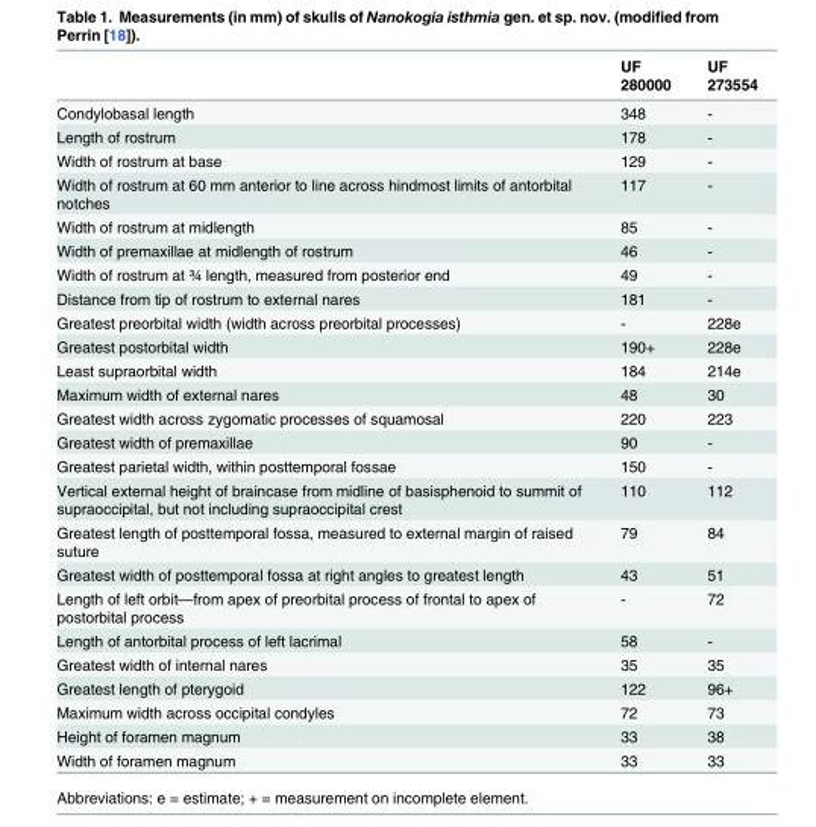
<table><thead><tr><td></td><td>UF 280000</td><td>UF 273554</td></tr></thead><tbody><tr><td>Condylobasal length</td><td>348</td><td>-</td></tr><tr><td>Length of rostrum</td><td>178</td><td>-</td></tr><tr><td>Width of rostrum at base</td><td>129</td><td>-</td></tr><tr><td>Width of rostrum at 60 mm anterior to line across hindmost limits of antorbital notches</td><td>117</td><td>-</td></tr><tr><td>Width of rostrum at midlength</td><td>85</td><td>-</td></tr><tr><td>Width of premaxillae at midlength of rostrum</td><td>46</td><td>-</td></tr><tr><td>Width of rostrum at ¾ length, measured from posterior end</td><td>49</td><td>-</td></tr><tr><td>Distance from tip of rostrum to external nares</td><td>181</td><td>-</td></tr><tr><td>Greatest preorbital width (width across preorbital processes)</td><td>-</td><td>228e</td></tr><tr><td>Greatest postorbital width</td><td>190+</td><td>228e</td></tr><tr><td>Least supraorbital width</td><td>184</td><td>214e</td></tr><tr><td>Maximum width of external nares</td><td>48</td><td>30</td></tr><tr><td>Greatest width across zygomatic processes of squamosal</td><td>220</td><td>223</td></tr><tr><td>Greatest width of premaxillae</td><td>90</td><td>-</td></tr><tr><td>Greatest parietal width, within posttemporal fossae</td><td>150</td><td>-</td></tr><tr><td>Vertical external height of braincase from midline of basisphenoid to summit of supraoccipital, but not including supraoccipital crest</td><td>110</td><td>112</td></tr><tr><td>Greatest length of posttemporal fossa, measured to external margin of raised suture</td><td>79</td><td>84</td></tr><tr><td>Greatest width of posttemporal fossa at right angles to greatest length</td><td>43</td><td>51</td></tr><tr><td>Length of left orbit—from apex of preorbital process of frontal to apex of postorbital process</td><td>-</td><td>72</td></tr><tr><td>Length of antorbital process of left lacrimal</td><td>58</td><td>-</td></tr><tr><td>Greatest width of internal nares</td><td>35</td><td>35</td></tr><tr><td>Greatest length of pterygoid</td><td>122</td><td>96+</td></tr><tr><td>Maximum width across occipital condyles</td><td>72</td><td>73</td></tr><tr><td>Height of foramen magnum</td><td>33</td><td>38</td></tr><tr><td>Width of foramen magnum</td><td>33</td><td>33</td></tr></tbody></table>